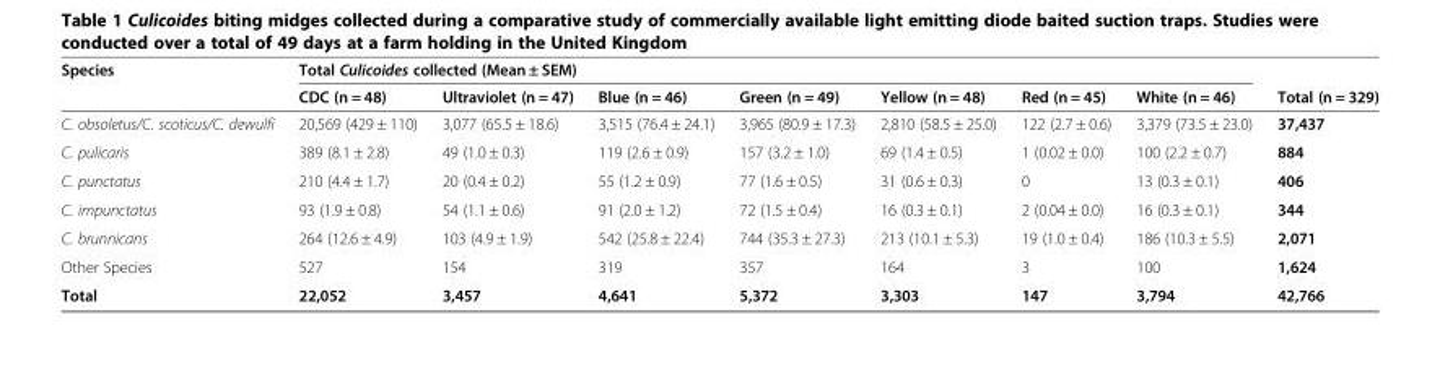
<table><thead><tr><td rowspan="2">Species</td><td colspan="7">Total Culicoides collected (Mean ± SEM)</td><td rowspan="2">Total (n = 329)</td></tr><tr><td>CDC (n = 48)</td><td>Ultraviolet (n = 47)</td><td>Blue (n = 46)</td><td>Green (n = 49)</td><td>Yellow (n = 48)</td><td>Red (n = 45)</td><td>White (n = 46)</td></tr></thead><tbody><tr><td>C. obsoletus/C. scoticus/C. dewulfi</td><td>20,569 (429 ± 110)</td><td>3,077 (65.5 ± 18.6)</td><td>3,515 (76.4 ± 24.1)</td><td>3,965 (80.9 ± 17.3)</td><td>2,810 (58.5 ± 25.0)</td><td>122 (2.7 ± 0.6)</td><td>3,379 (73.5 ± 23.0)</td><td>37,437</td></tr><tr><td>C. pulicaris</td><td>389 (8.1 ± 2.8)</td><td>49 (1.0 ± 0.3)</td><td>119 (2.6 ± 0.9)</td><td>157 (3.2 ± 1.0)</td><td>69 (1.4 ± 0.5)</td><td>1 (0.02 ± 0.0)</td><td>100 (2.2 ± 0.7)</td><td>884</td></tr><tr><td>C. punctatus</td><td>210 (4.4 ± 1.7)</td><td>20 (0.4 ± 0.2)</td><td>55 (1.2 ± 0.9)</td><td>77 (1.6 ± 0.5)</td><td>31 (0.6 ± 0.3)</td><td>0</td><td>13 (0.3 ± 0.1)</td><td>406</td></tr><tr><td>C. impunctatus</td><td>93 (1.9 ± 0.8)</td><td>54 (1.1 ± 0.6)</td><td>91 (2.0 ± 1.2)</td><td>72 (1.5 ± 0.4)</td><td>16 (0.3 ± 0.1)</td><td>2 (0.04 ± 0.0)</td><td>16 (0.3 ± 0.1)</td><td>344</td></tr><tr><td>C. brunnicans</td><td>264 (12.6 ± 4.9)</td><td>103 (4.9 ± 1.9)</td><td>542 (25.8 ± 22.4)</td><td>744 (35.3 ± 27.3)</td><td>213 (10.1 ± 5.3)</td><td>19 (1.0 ± 0.4)</td><td>186 (10.3 ± 5.5)</td><td>2,071</td></tr><tr><td>Other Species</td><td>527</td><td>154</td><td>319</td><td>357</td><td>164</td><td>3</td><td>100</td><td>1,624</td></tr><tr><td>Total</td><td>22,052</td><td>3,457</td><td>4,641</td><td>5,372</td><td>3,303</td><td>147</td><td>3,794</td><td>42,766</td></tr></tbody></table>